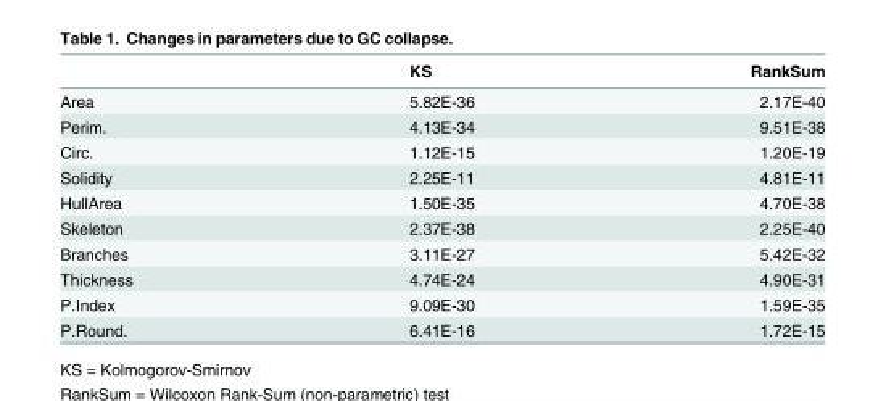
<table><thead><tr><td></td><td>KS</td><td>RankSum</td></tr></thead><tbody><tr><td>Area</td><td>5.82E-36</td><td>2.17E-40</td></tr><tr><td>Perim.</td><td>4.13E-34</td><td>9.51E-38</td></tr><tr><td>Circ.</td><td>1.12E-15</td><td>1.20E-19</td></tr><tr><td>Solidity</td><td>2.25E-11</td><td>4.81E-11</td></tr><tr><td>HullArea</td><td>1.50E-35</td><td>4.70E-38</td></tr><tr><td>Skeleton</td><td>2.37E-38</td><td>2.25E-40</td></tr><tr><td>Branches</td><td>3.11E-27</td><td>5.42E-32</td></tr><tr><td>Thickness</td><td>4.74E-24</td><td>4.90E-31</td></tr><tr><td>P.Index</td><td>9.09E-30</td><td>1.59E-35</td></tr><tr><td>P.Round.</td><td>6.41E-16</td><td>1.72E-15</td></tr></tbody></table>